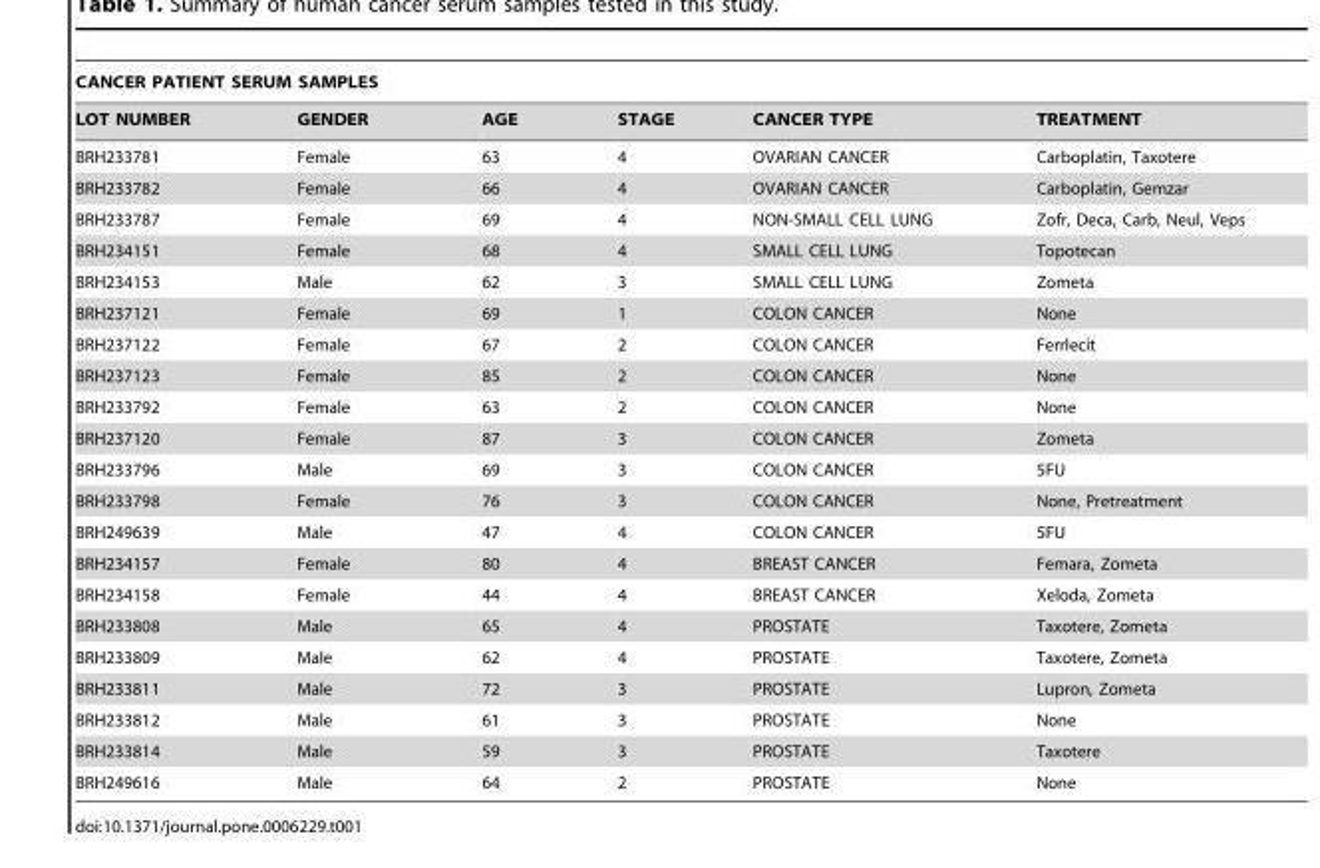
<table><thead><tr><td colspan="6">CANCER PATIENT SERUM SAMPLES</td></tr><tr><td>LOT NUMBER</td><td>GENDER</td><td>AGE</td><td>STAGE</td><td>CANCER TYPE</td><td>TREATMENT</td></tr></thead><tbody><tr><td>BRH233781</td><td>Female</td><td>63</td><td>4</td><td>OVARIAN CANCER</td><td>Carboplatin, Taxotere</td></tr><tr><td>BRH233782</td><td>Female</td><td>66</td><td>4</td><td>OVARIAN CANCER</td><td>Carboplatin, Gemzar</td></tr><tr><td>BRH233787</td><td>Female</td><td>69</td><td>4</td><td>NON-SMALL CELL LUNG</td><td>Zofr, Deca, Carb, Neul, Veps</td></tr><tr><td>BRH234151</td><td>Female</td><td>68</td><td>4</td><td>SMALL CELL LUNG</td><td>Topotecan</td></tr><tr><td>BRH234153</td><td>Male</td><td>62</td><td>3</td><td>SMALL CELL LUNG</td><td>Zometa</td></tr><tr><td>BRH237121</td><td>Female</td><td>69</td><td>1</td><td>COLON CANCER</td><td>None</td></tr><tr><td>BRH237122</td><td>Female</td><td>67</td><td>2</td><td>COLON CANCER</td><td>Ferrlecit</td></tr><tr><td>BRH237123</td><td>Female</td><td>85</td><td>2</td><td>COLON CANCER</td><td>None</td></tr><tr><td>BRH233792</td><td>Female</td><td>63</td><td>2</td><td>COLON CANCER</td><td>None</td></tr><tr><td>BRH237120</td><td>Female</td><td>87</td><td>3</td><td>COLON CANCER</td><td>Zometa</td></tr><tr><td>BRH233796</td><td>Male</td><td>69</td><td>3</td><td>COLON CANCER</td><td>5FU</td></tr><tr><td>BRH233798</td><td>Female</td><td>76</td><td>3</td><td>COLON CANCER</td><td>None, Pretreatment</td></tr><tr><td>BRH249639</td><td>Male</td><td>47</td><td>4</td><td>COLON CANCER</td><td>5FU</td></tr><tr><td>BRH234157</td><td>Female</td><td>80</td><td>4</td><td>BREAST CANCER</td><td>Femara, Zometa</td></tr><tr><td>BRH234158</td><td>Female</td><td>44</td><td>4</td><td>BREAST CANCER</td><td>Xeloda, Zometa</td></tr><tr><td>BRH233808</td><td>Male</td><td>65</td><td>4</td><td>PROSTATE</td><td>Taxotere, Zometa</td></tr><tr><td>BRH233809</td><td>Male</td><td>62</td><td>4</td><td>PROSTATE</td><td>Taxotere, Zometa</td></tr><tr><td>BRH233811</td><td>Male</td><td>72</td><td>3</td><td>PROSTATE</td><td>Lupron, Zometa</td></tr><tr><td>BRH233812</td><td>Male</td><td>61</td><td>3</td><td>PROSTATE</td><td>None</td></tr><tr><td>BRH233814</td><td>Male</td><td>59</td><td>3</td><td>PROSTATE</td><td>Taxotere</td></tr><tr><td>BRH249616</td><td>Male</td><td>64</td><td>2</td><td>PROSTATE</td><td>None</td></tr></tbody></table>